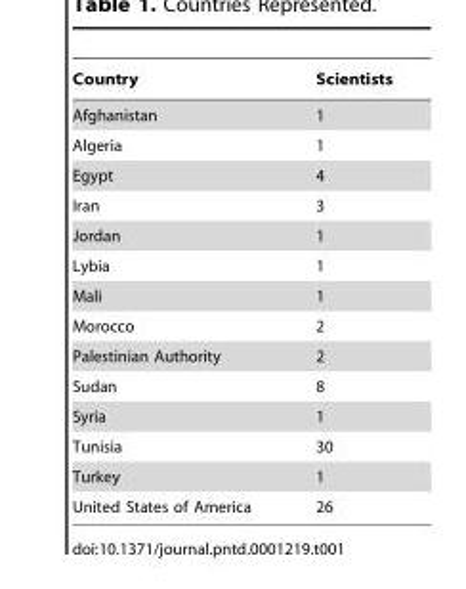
<table><thead><tr><td>Country</td><td>Scientists</td></tr></thead><tbody><tr><td>Afghanistan</td><td>1</td></tr><tr><td>Algeria</td><td>1</td></tr><tr><td>Egypt</td><td>4</td></tr><tr><td>Iran</td><td>3</td></tr><tr><td>Jordan</td><td>1</td></tr><tr><td>Lybia</td><td>1</td></tr><tr><td>Mali</td><td>1</td></tr><tr><td>Morocco</td><td>2</td></tr><tr><td>Palestinian Authority</td><td>2</td></tr><tr><td>Sudan</td><td>8</td></tr><tr><td>Syria</td><td>1</td></tr><tr><td>Tunisia</td><td>30</td></tr><tr><td>Turkey</td><td>1</td></tr><tr><td>United States of America</td><td>26</td></tr></tbody></table>